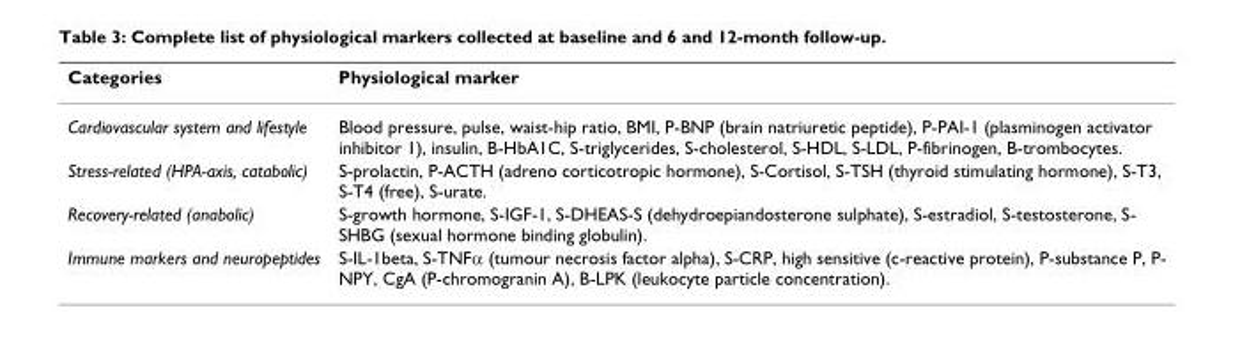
<table><thead><tr><td>Categories</td><td>Physiological marker</td></tr></thead><tbody><tr><td>Cardiovascular system and lifestyle</td><td>Blood pressure, pulse, waist-hip ratio, BMI, P-BNP (brain natriuretic peptide), P-PAI-1 (plasminogen activator inhibitor 1), insulin, B-HbA1C, S-triglycerides, S-cholesterol, S-HDL, S-LDL, P-fibrinogen, B-trombocytes.</td></tr><tr><td>Stress-related (HPA-axis, catabolic)</td><td>S-prolactin, P-ACTH (adreno corticotropic hormone), S-Cortisol, S-TSH (thyroid stimulating hormone), S-T3, S-T4 (free), S-urate.</td></tr><tr><td>Recovery-related (anabolic)</td><td>S-growth hormone, S-IGF-1, S-DHEAS-S (dehydroepiandosterone sulphate), S-estradiol, S-testosterone, S- SHBG (sexual hormone binding globulin).</td></tr><tr><td>Immune markers and neuropeptides</td><td>S-IL-1beta, S-TNFα (tumour necrosis factor alpha), S-CRP, high sensitive (c-reactive protein), P-substance P, P- NPY, CgA (P-chromogranin A), B-LPK (leukocyte particle concentration).</td></tr></tbody></table>